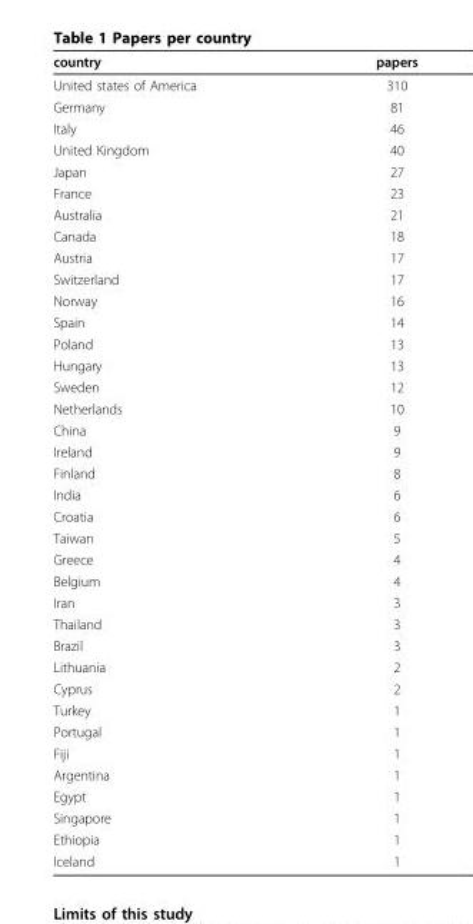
<table><thead><tr><td>country</td><td>papers</td></tr></thead><tbody><tr><td>United states of America</td><td>310</td></tr><tr><td>Germany</td><td>81</td></tr><tr><td>Italy</td><td>46</td></tr><tr><td>United Kingdom</td><td>40</td></tr><tr><td>Japan</td><td>27</td></tr><tr><td>France</td><td>23</td></tr><tr><td>Australia</td><td>21</td></tr><tr><td>Canada</td><td>18</td></tr><tr><td>Austria</td><td>17</td></tr><tr><td>Switzerland</td><td>17</td></tr><tr><td>Norway</td><td>16</td></tr><tr><td>Spain</td><td>14</td></tr><tr><td>Poland</td><td>13</td></tr><tr><td>Hungary</td><td>13</td></tr><tr><td>Sweden</td><td>12</td></tr><tr><td>Netherlands</td><td>10</td></tr><tr><td>China</td><td>9</td></tr><tr><td>Ireland</td><td>9</td></tr><tr><td>Finland</td><td>8</td></tr><tr><td>India</td><td>6</td></tr><tr><td>Croatia</td><td>6</td></tr><tr><td>Taiwan</td><td>5</td></tr><tr><td>Greece</td><td>4</td></tr><tr><td>Belgium</td><td>4</td></tr><tr><td>Iran</td><td>3</td></tr><tr><td>Thailand</td><td>3</td></tr><tr><td>Brazil</td><td>3</td></tr><tr><td>Lithuania</td><td>2</td></tr><tr><td>Cyprus</td><td>2</td></tr><tr><td>Turkey</td><td>1</td></tr><tr><td>Portugal</td><td>1</td></tr><tr><td>Fiji</td><td>1</td></tr><tr><td>Argentina</td><td>1</td></tr><tr><td>Egypt</td><td>1</td></tr><tr><td>Singapore</td><td>1</td></tr><tr><td>Ethiopia</td><td>1</td></tr><tr><td>Iceland</td><td>1</td></tr></tbody></table>